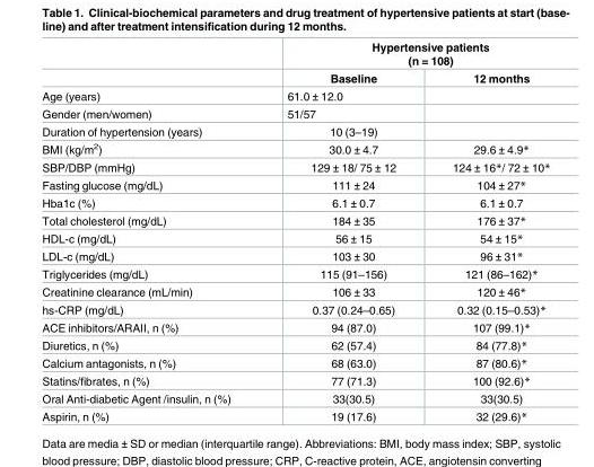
<table><thead><tr><td rowspan="2"></td><td colspan="2">Hypertensive patients (n = 108)</td></tr><tr><td>Baseline</td><td>12 months</td></tr></thead><tbody><tr><td>Age (years)</td><td>61.0 ± 12.0</td><td></td></tr><tr><td>Gender (men/women)</td><td>51/57</td><td></td></tr><tr><td>Duration of hypertension (years)</td><td>10 (3–19)</td><td></td></tr><tr><td>BMI (kg/m<sup>2</sup>)</td><td>30.0 ± 4.7</td><td>29.6 ± 4.9*</td></tr><tr><td>SBP/DBP (mmHg)</td><td>129 ± 18/ 75 ± 12</td><td>124 ± 16*/ 72 ± 10*</td></tr><tr><td>Fasting glucose (mg/dL)</td><td>111 ± 24</td><td>104 ± 27*</td></tr><tr><td>Hba1c (%)</td><td>6.1 ± 0.7</td><td>6.1 ± 0.7</td></tr><tr><td>Total cholesterol (mg/dL)</td><td>184 ± 35</td><td>176 ± 37*</td></tr><tr><td>HDL-c (mg/dL)</td><td>56 ± 15</td><td>54 ± 15*</td></tr><tr><td>LDL-c (mg/dL)</td><td>103 ± 30</td><td>96 ± 31*</td></tr><tr><td>Triglycerides (mg/dL)</td><td>115 (91–156)</td><td>121 (86–162)*</td></tr><tr><td>Creatinine clearance (mL/min)</td><td>106 ± 33</td><td>120 ± 46*</td></tr><tr><td>hs-CRP (mg/dL)</td><td>0.37 (0.24–0.65)</td><td>0.32 (0.15–0.53)*</td></tr><tr><td>ACE inhibitors/ARAII, n (%)</td><td>94 (87.0)</td><td>107 (99.1)*</td></tr><tr><td>Diuretics, n (%)</td><td>62 (57.4)</td><td>84 (77.8)*</td></tr><tr><td>Calcium antagonists, n (%)</td><td>68 (63.0)</td><td>87 (80.6)*</td></tr><tr><td>Statins/fibrates, n (%)</td><td>77 (71.3)</td><td>100 (92.6)*</td></tr><tr><td>Oral Anti-diabetic Agent /insulin, n (%)</td><td>33(30.5)</td><td>33(30.5)</td></tr><tr><td>Aspirin, n (%)</td><td>19 (17.6)</td><td>32 (29.6)*</td></tr></tbody></table>